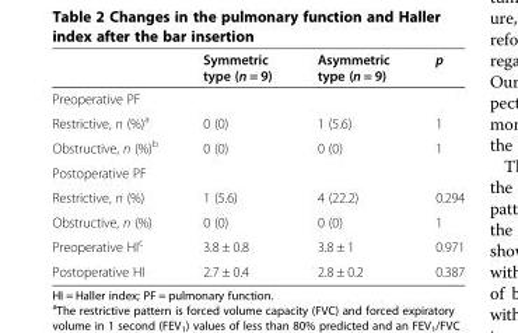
<table><thead><tr><td></td><td>Symmetric type (n = 9)</td><td>Asymmetric type (n = 9)</td><td>p</td></tr></thead><tbody><tr><td colspan="4">Preoperative PF</td></tr><tr><td>Restrictive, n (%)<sup>a</sup></td><td>0 (0)</td><td>1 (5.6)</td><td>1</td></tr><tr><td>Obstructive, n (%)<sup>b</sup></td><td>0 (0)</td><td>0 (0)</td><td>1</td></tr><tr><td colspan="4">Postoperative PF</td></tr><tr><td>Restrictive, n (%)</td><td>1 (5.6)</td><td>4 (22.2)</td><td>0.294</td></tr><tr><td>Obstructive, n (%)</td><td>0 (0)</td><td>0 (0)</td><td>1</td></tr><tr><td>Preoperative HI<sup>c</sup></td><td>3.8 ± 0.8</td><td>3.8 ± 1</td><td>0.971</td></tr><tr><td>Postoperative HI</td><td>2.7 ± 0.4</td><td>2.8 ± 0.2</td><td>0.387</td></tr></tbody></table>